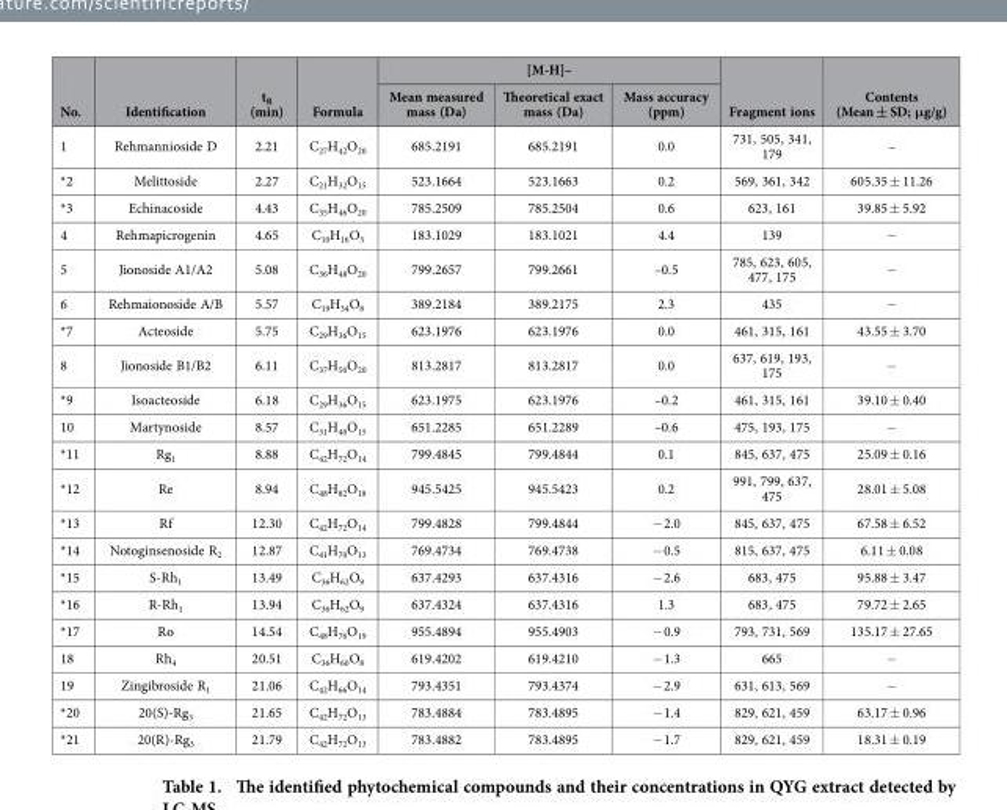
<table><thead><tr><td rowspan="2">No.</td><td rowspan="2">Identification</td><td rowspan="2">t<sub>R</sub> (min)</td><td rowspan="2">Formula</td><td colspan="3">[M-H]–</td><td rowspan="2">Fragment ions</td><td rowspan="2">Contents (Mean ± SD; μg/g)</td></tr><tr><td>Mean measured mass (Da)</td><td>Theoretical exact mass (Da)</td><td>Mass accuracy (ppm)</td></tr></thead><tbody><tr><td>1</td><td>Rehmannioside D</td><td>2.21</td><td>C<sub>27</sub>H<sub>42</sub>O<sub>20</sub></td><td>685.2191</td><td>685.2191</td><td>0.0</td><td>731, 505, 341, 179</td><td>–</td></tr><tr><td>*2</td><td>Melittoside</td><td>2.27</td><td>C<sub>21</sub>H<sub>32</sub>O<sub>15</sub></td><td>523.1664</td><td>523.1663</td><td>0.2</td><td>569, 361, 342</td><td>605.35 ± 11.26</td></tr><tr><td>*3</td><td>Echinacoside</td><td>4.43</td><td>C<sub>35</sub>H<sub>46</sub>O<sub>20</sub></td><td>785.2509</td><td>785.2504</td><td>0.6</td><td>623, 161</td><td>39.85 ± 5.92</td></tr><tr><td>4</td><td>Rehmapicrogenin</td><td>4.65</td><td>C<sub>10</sub>H<sub>16</sub>O<sub>3</sub></td><td>183.1029</td><td>183.1021</td><td>4.4</td><td>139</td><td>−</td></tr><tr><td>5</td><td>Jionoside A1/A2</td><td>5.08</td><td>C<sub>36</sub>H<sub>48</sub>O<sub>20</sub></td><td>799.2657</td><td>799.2661</td><td>–0.5</td><td>785, 623, 605, 477, 175</td><td>−</td></tr><tr><td>6</td><td>Rehmaionoside A/B</td><td>5.57</td><td>C<sub>19</sub>H<sub>34</sub>O<sub>8</sub></td><td>389.2184</td><td>389.2175</td><td>2.3</td><td>435</td><td>−</td></tr><tr><td>*7</td><td>Acteoside</td><td>5.75</td><td>C<sub>29</sub>H<sub>36</sub>O<sub>15</sub></td><td>623.1976</td><td>623.1976</td><td>0.0</td><td>461, 315, 161</td><td>43.55 ± 3.70</td></tr><tr><td>8</td><td>Jionoside B1/B2</td><td>6.11</td><td>C<sub>37</sub>H<sub>50</sub>O<sub>20</sub></td><td>813.2817</td><td>813.2817</td><td>0.0</td><td>637, 619, 193, 175</td><td>−</td></tr><tr><td>*9</td><td>Isoacteoside</td><td>6.18</td><td>C<sub>29</sub>H<sub>36</sub>O<sub>15</sub></td><td>623.1975</td><td>623.1976</td><td>–0.2</td><td>461, 315, 161</td><td>39.10 ± 0.40</td></tr><tr><td>10</td><td>Martynoside</td><td>8.57</td><td>C<sub>31</sub>H<sub>40</sub>O<sub>15</sub></td><td>651.2285</td><td>651.2289</td><td>–0.6</td><td>475, 193, 175</td><td>−</td></tr><tr><td>*11</td><td>Rg<sub>1</sub></td><td>8.88</td><td>C<sub>42</sub>H<sub>72</sub>O<sub>14</sub></td><td>799.4845</td><td>799.4844</td><td>0.1</td><td>845, 637, 475</td><td>25.09 ± 0.16</td></tr><tr><td>*12</td><td>Re</td><td>8.94</td><td>C<sub>48</sub>H<sub>82</sub>O<sub>18</sub></td><td>945.5425</td><td>945.5423</td><td>0.2</td><td>991, 799, 637, 475</td><td>28.01 ± 5.08</td></tr><tr><td>*13</td><td>Rf</td><td>12.30</td><td>C<sub>42</sub>H<sub>72</sub>O<sub>14</sub></td><td>799.4828</td><td>799.4844</td><td>− 2.0</td><td>845, 637, 475</td><td>67.58 ± 6.52</td></tr><tr><td>*14</td><td>Notoginsenoside R<sub>2</sub></td><td>12.87</td><td>C<sub>41</sub>H<sub>70</sub>O<sub>13</sub></td><td>769.4734</td><td>769.4738</td><td>− 0.5</td><td>815, 637, 475</td><td>6.11 ± 0.08</td></tr><tr><td>*15</td><td>S-Rh<sub>1</sub></td><td>13.49</td><td>C<sub>36</sub>H<sub>62</sub>O<sub>9</sub></td><td>637.4293</td><td>637.4316</td><td>− 2.6</td><td>683, 475</td><td>95.88 ± 3.47</td></tr><tr><td>*16</td><td>R-Rh<sub>1</sub></td><td>13.94</td><td>C<sub>36</sub>H<sub>62</sub>O<sub>9</sub></td><td>637.4324</td><td>637.4316</td><td>1.3</td><td>683, 475</td><td>79.72 ± 2.65</td></tr><tr><td>*17</td><td>Ro</td><td>14.54</td><td>C<sub>48</sub>H<sub>76</sub>O<sub>19</sub></td><td>955.4894</td><td>955.4903</td><td>− 0.9</td><td>793, 731, 569</td><td>135.17 ± 27.65</td></tr><tr><td>18</td><td>Rh<sub>4</sub></td><td>20.51</td><td>C<sub>36</sub>H<sub>60</sub>O<sub>8</sub></td><td>619.4202</td><td>619.4210</td><td>− 1.3</td><td>665</td><td>−</td></tr><tr><td>19</td><td>Zingibroside R<sub>1</sub></td><td>21.06</td><td>C<sub>42</sub>H<sub>66</sub>O<sub>14</sub></td><td>793.4351</td><td>793.4374</td><td>− 2.9</td><td>631, 613, 569</td><td>−</td></tr><tr><td>*20</td><td>20(S)-Rg<sub>3</sub></td><td>21.65</td><td>C<sub>42</sub>H<sub>72</sub>O<sub>13</sub></td><td>783.4884</td><td>783.4895</td><td>− 1.4</td><td>829, 621, 459</td><td>63.17 ± 0.96</td></tr><tr><td>*21</td><td>20(R)-Rg<sub>3</sub></td><td>21.79</td><td>C<sub>42</sub>H<sub>72</sub>O<sub>13</sub></td><td>783.4882</td><td>783.4895</td><td>− 1.7</td><td>829, 621, 459</td><td>18.31 ± 0.19</td></tr></tbody></table>